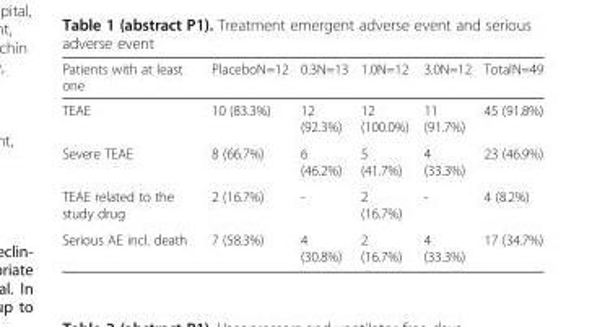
<table><thead><tr><td>Patients with at least one</td><td>PlaceboN=12</td><td>0.3N=13</td><td>1.0N=12</td><td>3.0N=12</td><td>TotalN=49</td></tr></thead><tbody><tr><td>TEAE</td><td>10 (83.3%)</td><td>12 (92.3%)</td><td>12 (100.0%)</td><td>11 (91.7%)</td><td>45 (91.8%)</td></tr><tr><td>Severe TEAE</td><td>8 (66.7%)</td><td>6 (46.2%)</td><td>5 (41.7%)</td><td>4 (33.3%)</td><td>23 (46.9%)</td></tr><tr><td>TEAE related to the study drug</td><td>2 (16.7%)</td><td>-</td><td>2 (16.7%)</td><td>-</td><td>4 (8.2%)</td></tr><tr><td>Serious AE incl. death</td><td>7 (58.3%)</td><td>4 (30.8%)</td><td>2 (16.7%)</td><td>4 (33.3%)</td><td>17 (34.7%)</td></tr></tbody></table>